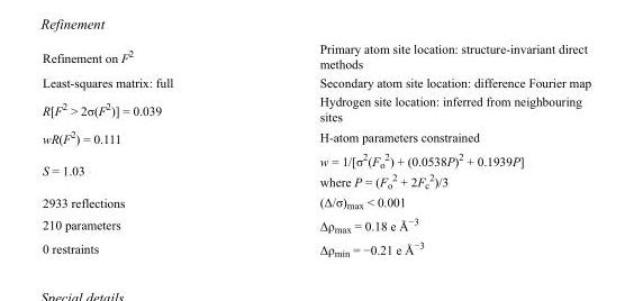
<table><tbody><tr><td>Refinement on F<sup>2</sup></td><td>Primary atom site location: structure-invariant direct methods</td></tr><tr><td>Least-squares matrix: full</td><td>Secondary atom site location: difference Fourier map</td></tr><tr><td>R[F<sup>2</sup> &gt; 2σ(F<sup>2</sup>)] = 0.039</td><td>Hydrogen site location: inferred from neighbouring sites</td></tr><tr><td>wR(F<sup>2</sup>) = 0.111</td><td>H-atom parameters constrained</td></tr><tr><td>S = 1.03</td><td>w = 1/[σ<sup>2</sup>(F<sub>o</sub> <sup>2</sup>) + (0.0538P)<sup>2</sup> + 0.1939P] where P = (F<sub>o</sub> <sup>2</sup> + 2F<sub>c</sub> <sup>2</sup>)/3</td></tr><tr><td>2933 reflections</td><td>(Δ/σ)<sub>max</sub> &lt; 0.001</td></tr><tr><td>210 parameters</td><td>Δρ<sub>max</sub> = 0.18 e Å<sup>−3</sup></td></tr><tr><td>0 restraints</td><td>Δρ<sub>min</sub> = −0.21 e Å<sup>−3</sup></td></tr></tbody></table>